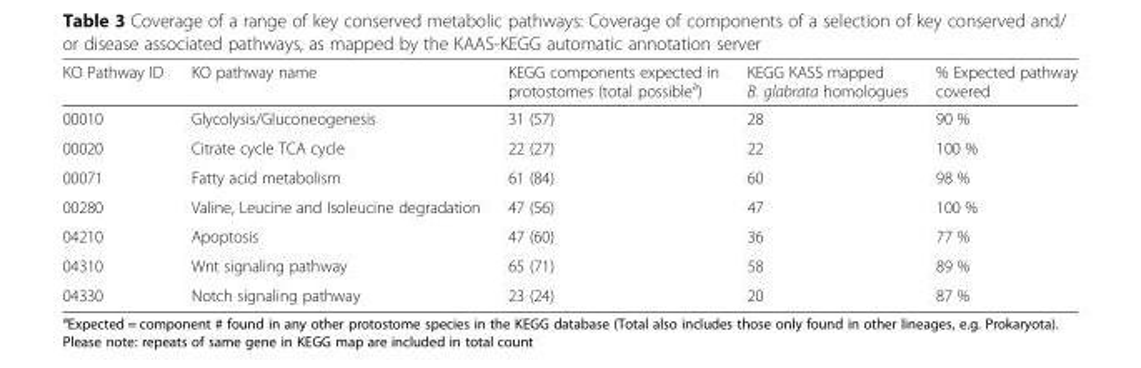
<table><thead><tr><td>KO Pathway ID</td><td>KO pathway name</td><td>KEGG components expected in protostomes (total possible<sup>a</sup>)</td><td>KEGG KASS mapped B. glabrata homologues</td><td>% Expected pathway covered</td></tr></thead><tbody><tr><td>00010</td><td>Glycolysis/Gluconeogenesis</td><td>31 (57)</td><td>28</td><td>90 %</td></tr><tr><td>00020</td><td>Citrate cycle TCA cycle</td><td>22 (27)</td><td>22</td><td>100 %</td></tr><tr><td>00071</td><td>Fatty acid metabolism</td><td>61 (84)</td><td>60</td><td>98 %</td></tr><tr><td>00280</td><td>Valine, Leucine and Isoleucine degradation</td><td>47 (56)</td><td>47</td><td>100 %</td></tr><tr><td>04210</td><td>Apoptosis</td><td>47 (60)</td><td>36</td><td>77 %</td></tr><tr><td>04310</td><td>Wnt signaling pathway</td><td>65 (71)</td><td>58</td><td>89 %</td></tr><tr><td>04330</td><td>Notch signaling pathway</td><td>23 (24)</td><td>20</td><td>87 %</td></tr></tbody></table>